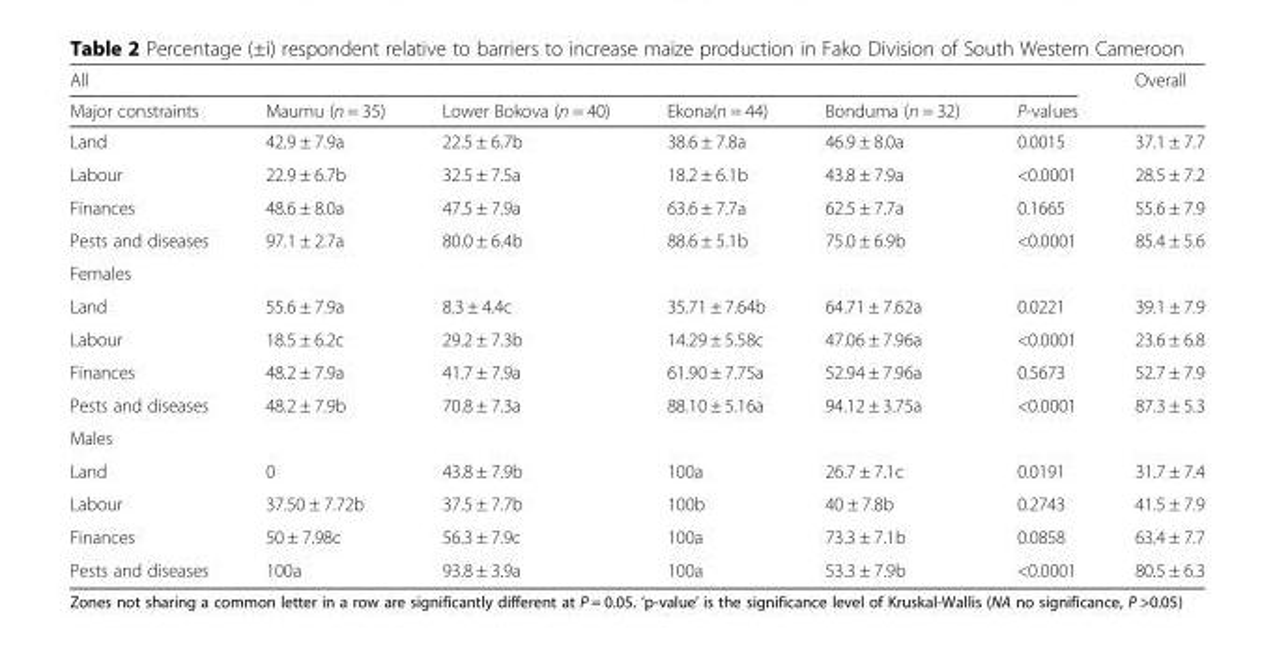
<table><thead><tr><td colspan="6">All</td><td rowspan="2">Overall</td></tr><tr><td>Major constraints</td><td>Maumu (n = 35)</td><td>Lower Bokova (n = 40)</td><td>Ekona(n = 44)</td><td>Bonduma (n = 32)</td><td>P-values</td></tr></thead><tbody><tr><td>Land</td><td>42.9 ± 7.9a</td><td>22.5 ± 6.7b</td><td>38.6 ± 7.8a</td><td>46.9 ± 8.0a</td><td>0.0015</td><td>37.1 ± 7.7</td></tr><tr><td>Labour</td><td>22.9 ± 6.7b</td><td>32.5 ± 7.5a</td><td>18.2 ± 6.1b</td><td>43.8 ± 7.9a</td><td>&lt;0.0001</td><td>28.5 ± 7.2</td></tr><tr><td>Finances</td><td>48.6 ± 8.0a</td><td>47.5 ± 7.9a</td><td>63.6 ± 7.7a</td><td>62.5 ± 7.7a</td><td>0.1665</td><td>55.6 ± 7.9</td></tr><tr><td>Pests and diseases</td><td>97.1 ± 2.7a</td><td>80.0 ± 6.4b</td><td>88.6 ± 5.1b</td><td>75.0 ± 6.9b</td><td>&lt;0.0001</td><td>85.4 ± 5.6</td></tr><tr><td colspan="7">Females</td></tr><tr><td>Land</td><td>55.6 ± 7.9a</td><td>8.3 ± 4.4c</td><td>35.71 ± 7.64b</td><td>64.71 ± 7.62a</td><td>0.0221</td><td>39.1 ± 7.9</td></tr><tr><td>Labour</td><td>18.5 ± 6.2c</td><td>29.2 ± 7.3b</td><td>14.29 ± 5.58c</td><td>47.06 ± 7.96a</td><td>&lt;0.0001</td><td>23.6 ± 6.8</td></tr><tr><td>Finances</td><td>48.2 ± 7.9a</td><td>41.7 ± 7.9a</td><td>61.90 ± 7.75a</td><td>52.94 ± 7.96a</td><td>0.5673</td><td>52.7 ± 7.9</td></tr><tr><td>Pests and diseases</td><td>48.2 ± 7.9b</td><td>70.8 ± 7.3a</td><td>88.10 ± 5.16a</td><td>94.12 ± 3.75a</td><td>&lt;0.0001</td><td>87.3 ± 5.3</td></tr><tr><td colspan="7">Males</td></tr><tr><td>Land</td><td>0</td><td>43.8 ± 7.9b</td><td>100a</td><td>26.7 ± 7.1c</td><td>0.0191</td><td>31.7 ± 7.4</td></tr><tr><td>Labour</td><td>37.50 ± 7.72b</td><td>37.5 ± 7.7b</td><td>100b</td><td>40 ± 7.8b</td><td>0.2743</td><td>41.5 ± 7.9</td></tr><tr><td>Finances</td><td>50 ± 7.98c</td><td>56.3 ± 7.9c</td><td>100a</td><td>73.3 ± 7.1b</td><td>0.0858</td><td>63.4 ± 7.7</td></tr><tr><td>Pests and diseases</td><td>100a</td><td>93.8 ± 3.9a</td><td>100a</td><td>53.3 ± 7.9b</td><td>&lt;0.0001</td><td>80.5 ± 6.3</td></tr></tbody></table>